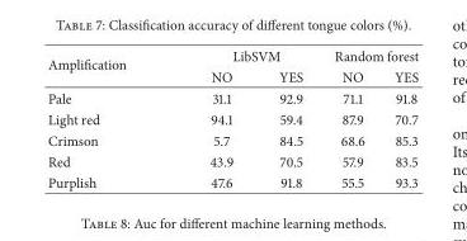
<table><thead><tr><td rowspan="2">Amplification</td><td colspan="2">LibSVM</td><td colspan="2">Random forest</td></tr><tr><td>NO</td><td>YES</td><td>NO</td><td>YES</td></tr></thead><tbody><tr><td>Pale</td><td>31.1</td><td>92.9</td><td>71.1</td><td>91.8</td></tr><tr><td>Light red</td><td>94.1</td><td>59.4</td><td>87.9</td><td>70.7</td></tr><tr><td>Crimson</td><td>5.7</td><td>84.5</td><td>68.6</td><td>85.3</td></tr><tr><td>Red</td><td>43.9</td><td>70.5</td><td>57.9</td><td>83.5</td></tr><tr><td>Purplish</td><td>47.6</td><td>91.8</td><td>55.5</td><td>93.3</td></tr></tbody></table>